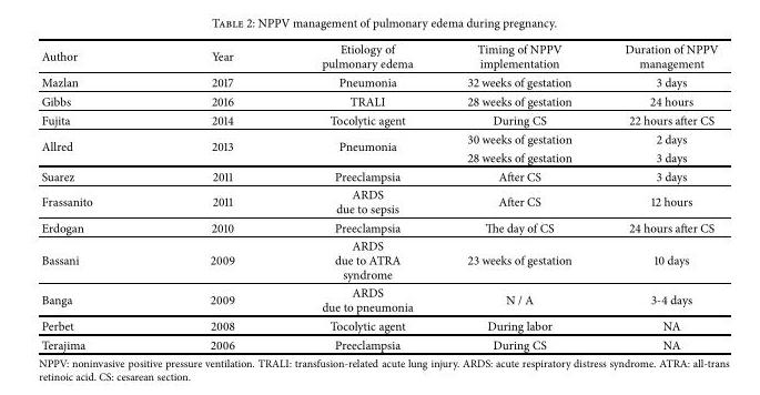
<table><thead><tr><td>Author</td><td>Year</td><td>Etiology of pulmonary edema</td><td>Timing of NPPV implementation</td><td>Duration of NPPV management</td></tr></thead><tbody><tr><td>Mazlan</td><td>2017</td><td>Pneumonia</td><td>32 weeks of gestation</td><td>3 days</td></tr><tr><td>Gibbs</td><td>2016</td><td>TRALI</td><td>28 weeks of gestation</td><td>24 hours</td></tr><tr><td>Fujita</td><td>2014</td><td>Tocolytic agent</td><td>During CS</td><td>22 hours after CS</td></tr><tr><td rowspan="2">Allred</td><td rowspan="2">2013</td><td rowspan="2">Pneumonia</td><td>30 weeks of gestation</td><td>2 days</td></tr><tr><td>28 weeks of gestation</td><td>3 days</td></tr><tr><td>Suarez</td><td>2011</td><td>Preeclampsia</td><td>After CS</td><td>3 days</td></tr><tr><td>Frassanito</td><td>2011</td><td>ARDS due to sepsis</td><td>After CS</td><td>12 hours</td></tr><tr><td>Erdogan</td><td>2010</td><td>Preeclampsia</td><td>The day of CS</td><td>24 hours after CS</td></tr><tr><td>Bassani</td><td>2009</td><td>ARDS due to ATRA syndrome</td><td>23 weeks of gestation</td><td>10 days</td></tr><tr><td>Banga</td><td>2009</td><td>ARDS due to pneumonia</td><td>N / A</td><td>3-4 days</td></tr><tr><td>Perbet</td><td>2008</td><td>Tocolytic agent</td><td>During labor</td><td>NA</td></tr><tr><td>Terajima</td><td>2006</td><td>Preeclampsia</td><td>During CS</td><td>NA</td></tr></tbody></table>